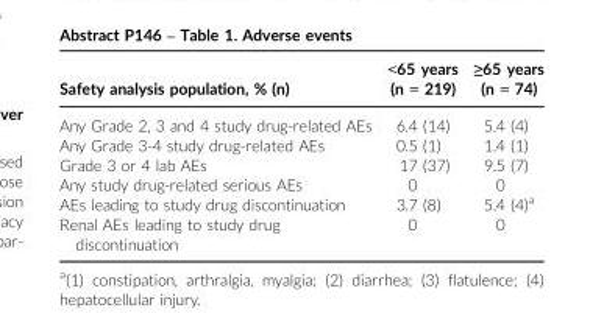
<table><thead><tr><td>Safety analysis population, % (n)</td><td>&lt;65 years (n = 219)</td><td>≥65 years (n = 74)</td></tr></thead><tbody><tr><td>Any Grade 2, 3 and 4 study drug-related AEs</td><td>6.4 (14)</td><td>5.4 (4)</td></tr><tr><td>Any Grade 3-4 study drug-related AEs</td><td>0.5 (1)</td><td>1.4 (1)</td></tr><tr><td>Grade 3 or 4 lab AEs</td><td>17 (37)</td><td>9.5 (7)</td></tr><tr><td>Any study drug-related serious AEs</td><td>0</td><td>0</td></tr><tr><td>AEs leading to study drug discontinuation</td><td>3.7 (8)</td><td>5.4 (4)<sup>a</sup></td></tr><tr><td>Renal AEs leading to study drug discontinuation</td><td>0</td><td>0</td></tr></tbody></table>